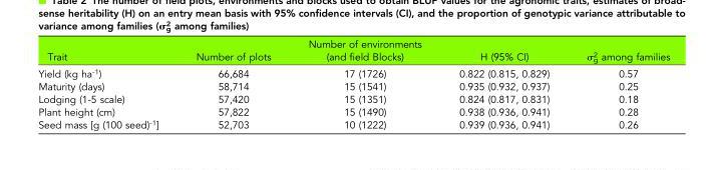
<table><thead><tr><td>Trait</td><td>Number of plots</td><td>Number of environments (and field Blocks)</td><td>H (95% CI)</td><td>σ<sup>2</sup><sub>g</sub> among families</td></tr></thead><tbody><tr><td>Yield (kg ha<sup>-1</sup>)</td><td>66,684</td><td>17 (1726)</td><td>0.822 (0.815, 0.829)</td><td>0.57</td></tr><tr><td>Maturity (days)</td><td>58,714</td><td>15 (1541)</td><td>0.935 (0.932, 0.937)</td><td>0.25</td></tr><tr><td>Lodging (1-5 scale)</td><td>57,420</td><td>15 (1351)</td><td>0.824 (0.817, 0.831)</td><td>0.18</td></tr><tr><td>Plant height (cm)</td><td>57,822</td><td>15 (1490)</td><td>0.938 (0.936, 0.941)</td><td>0.28</td></tr><tr><td>Seed mass [g (100 seed)<sup>-1</sup>]</td><td>52,703</td><td>10 (1222)</td><td>0.939 (0.936, 0.941)</td><td>0.26</td></tr></tbody></table>